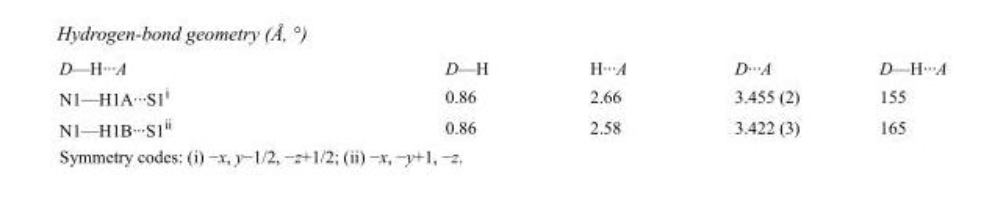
<table><tbody><tr><td>D—H···A</td><td>D—H</td><td>H···A</td><td>D···A</td><td>D—H···A</td></tr><tr><td>N1—H1A···S1<sup>i</sup></td><td>0.86</td><td>2.66</td><td>3.455 (2)</td><td>155</td></tr><tr><td>N1—H1B···S1<sup>ii</sup></td><td>0.86</td><td>2.58</td><td>3.422 (3)</td><td>165</td></tr></tbody></table>